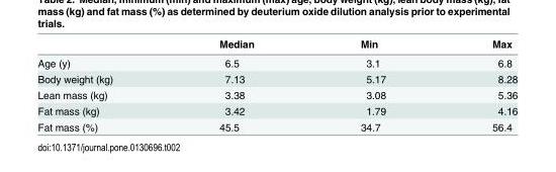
<table><thead><tr><td></td><td>Median</td><td>Min</td><td>Max</td></tr></thead><tbody><tr><td>Age (y)</td><td>6.5</td><td>3.1</td><td>6.8</td></tr><tr><td>Body weight (kg)</td><td>7.13</td><td>5.17</td><td>8.28</td></tr><tr><td>Lean mass (kg)</td><td>3.38</td><td>3.08</td><td>5.36</td></tr><tr><td>Fat mass (kg)</td><td>3.42</td><td>1.79</td><td>4.16</td></tr><tr><td>Fat mass (%)</td><td>45.5</td><td>34.7</td><td>56.4</td></tr></tbody></table>